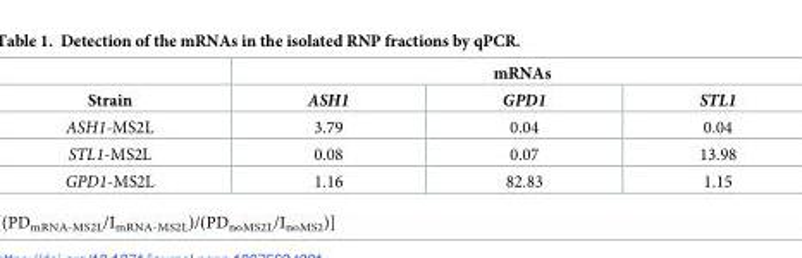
<table><thead><tr><td rowspan="2">Strain</td><td colspan="3">mRNAs</td></tr><tr><td>ASH1</td><td>GPD1</td><td>STL1</td></tr></thead><tbody><tr><td>ASH1-MS2L</td><td>3.79</td><td>0.04</td><td>0.04</td></tr><tr><td>STL1-MS2L</td><td>0.08</td><td>0.07</td><td>13.98</td></tr><tr><td>GPD1-MS2L</td><td>1.16</td><td>82.83</td><td>1.15</td></tr></tbody></table>